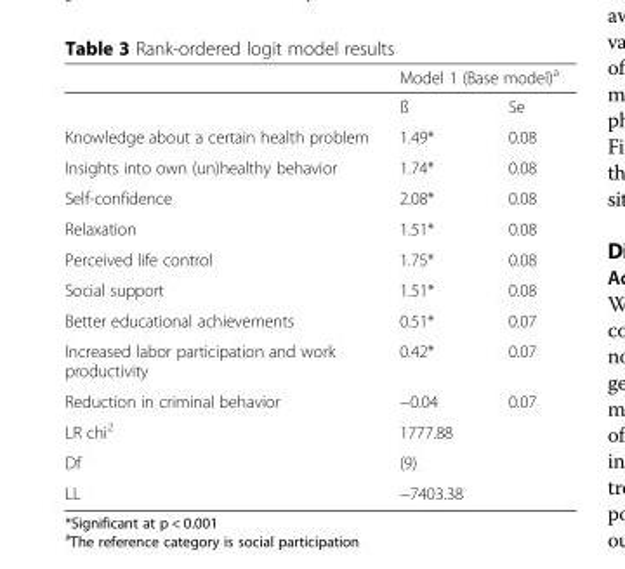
<table><thead><tr><td rowspan="2"></td><td colspan="2">Model 1 (Base model)<sup>a</sup></td></tr><tr><td>ß</td><td>Se</td></tr></thead><tbody><tr><td>Knowledge about a certain health problem</td><td>1.49*</td><td>0.08</td></tr><tr><td>Insights into own (un)healthy behavior</td><td>1.74*</td><td>0.08</td></tr><tr><td>Self-confidence</td><td>2.08*</td><td>0.08</td></tr><tr><td>Relaxation</td><td>1.51*</td><td>0.08</td></tr><tr><td>Perceived life control</td><td>1.75*</td><td>0.08</td></tr><tr><td>Social support</td><td>1.51*</td><td>0.08</td></tr><tr><td>Better educational achievements</td><td>0.51*</td><td>0.07</td></tr><tr><td>Increased labor participation and work productivity</td><td>0.42*</td><td>0.07</td></tr><tr><td>Reduction in criminal behavior</td><td>−0.04</td><td>0.07</td></tr><tr><td>LR chi<sup>2</sup></td><td colspan="2">1777.88</td></tr><tr><td>Df</td><td colspan="2">(9)</td></tr><tr><td>LL</td><td colspan="2">−7403.38</td></tr></tbody></table>